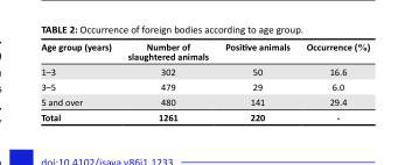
<table><thead><tr><td>Age group (years)</td><td>Number of slaughtered animals</td><td>Positive animals</td><td>Occurrence (%)</td></tr></thead><tbody><tr><td>1–3</td><td>302</td><td>50</td><td>16.6</td></tr><tr><td>3–5</td><td>479</td><td>29</td><td>6.0</td></tr><tr><td>5 and over</td><td>480</td><td>141</td><td>29.4</td></tr><tr><td>Total</td><td>1261</td><td>220</td><td>-</td></tr></tbody></table>